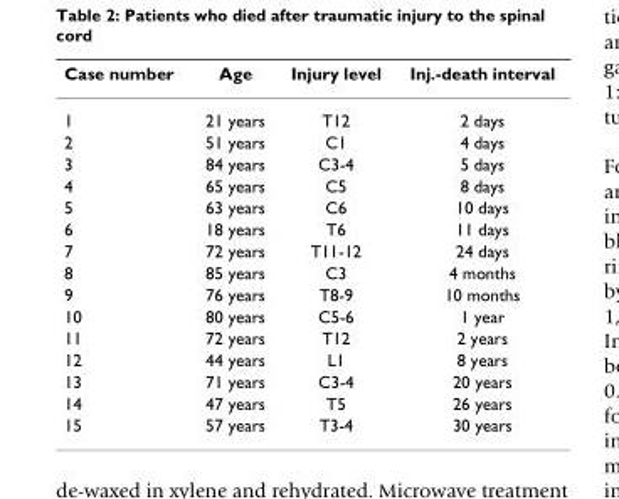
<table><thead><tr><td>Case number</td><td>Age</td><td>Injury level</td><td>Inj.-death interval</td></tr></thead><tbody><tr><td>1</td><td>21 years</td><td>T12</td><td>2 days</td></tr><tr><td>2</td><td>51 years</td><td>C1</td><td>4 days</td></tr><tr><td>3</td><td>84 years</td><td>C3-4</td><td>5 days</td></tr><tr><td>4</td><td>65 years</td><td>C5</td><td>8 days</td></tr><tr><td>5</td><td>63 years</td><td>C6</td><td>10 days</td></tr><tr><td>6</td><td>18 years</td><td>T6</td><td>11 days</td></tr><tr><td>7</td><td>72 years</td><td>T11-12</td><td>24 days</td></tr><tr><td>8</td><td>85 years</td><td>C3</td><td>4 months</td></tr><tr><td>9</td><td>76 years</td><td>T8-9</td><td>10 months</td></tr><tr><td>10</td><td>80 years</td><td>C5-6</td><td>1 year</td></tr><tr><td>11</td><td>72 years</td><td>T12</td><td>2 years</td></tr><tr><td>12</td><td>44 years</td><td>L1</td><td>8 years</td></tr><tr><td>13</td><td>71 years</td><td>C3-4</td><td>20 years</td></tr><tr><td>14</td><td>47 years</td><td>T5</td><td>26 years</td></tr><tr><td>15</td><td>57 years</td><td>T3-4</td><td>30 years</td></tr></tbody></table>